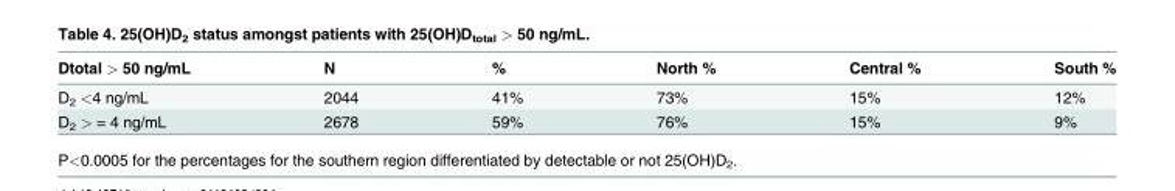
<table><thead><tr><td>Dtotal &gt; 50 ng/mL</td><td>N</td><td>%</td><td>North %</td><td>Central %</td><td>South %</td></tr></thead><tbody><tr><td>D<sub>2</sub> &lt;4 ng/mL</td><td>2044</td><td>41%</td><td>73%</td><td>15%</td><td>12%</td></tr><tr><td>D<sub>2</sub> &gt; = 4 ng/mL</td><td>2678</td><td>59%</td><td>76%</td><td>15%</td><td>9%</td></tr></tbody></table>